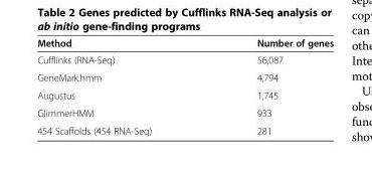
<table><thead><tr><td>Method</td><td>Number of genes</td></tr></thead><tbody><tr><td>Cufflinks (RNA-Seq)</td><td>56,087</td></tr><tr><td>GeneMark.hmm</td><td>4,794</td></tr><tr><td>Augustus</td><td>1,745</td></tr><tr><td>GlimmerHMM</td><td>933</td></tr><tr><td>454 Scaffolds (454 RNA-Seq)</td><td>281</td></tr></tbody></table>